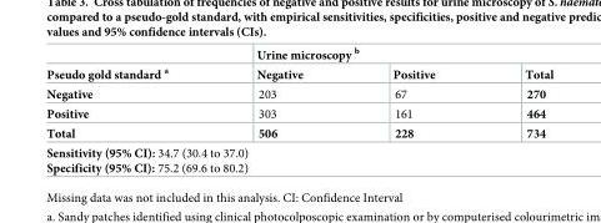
<table><thead><tr><td rowspan="2">Pseudo gold standard <sup>a</sup></td><td colspan="3">Urine microscopy <sup>b</sup></td></tr><tr><td>Negative</td><td>Positive</td><td>Total</td></tr></thead><tbody><tr><td>Negative</td><td>203</td><td>67</td><td>270</td></tr><tr><td>Positive</td><td>303</td><td>161</td><td>464</td></tr><tr><td>Total</td><td>506</td><td>228</td><td>734</td></tr><tr><td colspan="4">Sensitivity (95% CI): 34.7 (30.4 to 37.0) Specificity (95% CI): 75.2 (69.6 to 80.2)</td></tr></tbody></table>